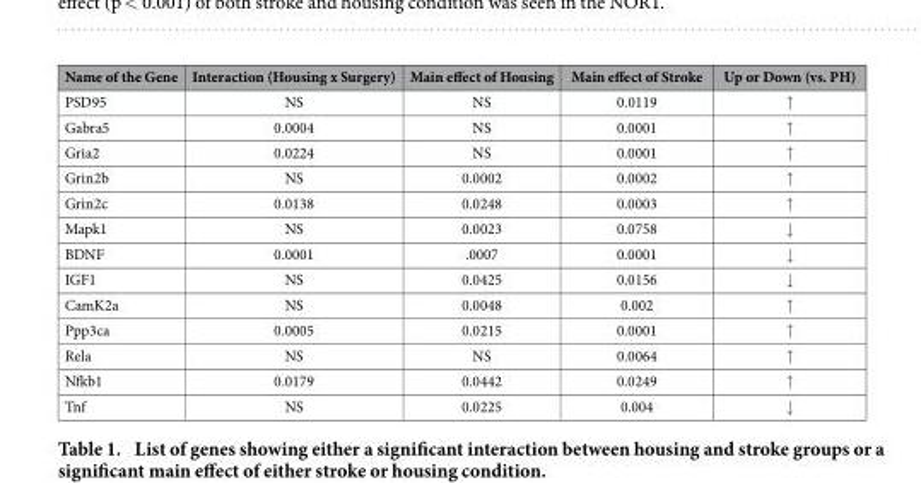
<table><thead><tr><td>Name of the Gene</td><td>Interaction (Housing x Surgery)</td><td>Main effect of Housing</td><td>Main effect of Stroke</td><td>Up or Down (vs. PH)</td></tr></thead><tbody><tr><td>PSD95</td><td>NS</td><td>NS</td><td>0.0119</td><td>↑</td></tr><tr><td>Gabra5</td><td>0.0004</td><td>NS</td><td>0.0001</td><td>↑</td></tr><tr><td>Gria2</td><td>0.0224</td><td>NS</td><td>0.0001</td><td>↑</td></tr><tr><td>Grin2b</td><td>NS</td><td>0.0002</td><td>0.0002</td><td>↑</td></tr><tr><td>Grin2c</td><td>0.0138</td><td>0.0248</td><td>0.0003</td><td>↑</td></tr><tr><td>Mapk1</td><td>NS</td><td>0.0023</td><td>0.0758</td><td>↓</td></tr><tr><td>BDNF</td><td>0.0001</td><td>.0007</td><td>0.0001</td><td>↓</td></tr><tr><td>IGF1</td><td>NS</td><td>0.0425</td><td>0.0156</td><td>↓</td></tr><tr><td>CamK2a</td><td>NS</td><td>0.0048</td><td>0.002</td><td>↑</td></tr><tr><td>Ppp3ca</td><td>0.0005</td><td>0.0215</td><td>0.0001</td><td>↑</td></tr><tr><td>Rela</td><td>NS</td><td>NS</td><td>0.0064</td><td>↑</td></tr><tr><td>Nfkb1</td><td>0.0179</td><td>0.0442</td><td>0.0249</td><td>↑</td></tr><tr><td>Tnf</td><td>NS</td><td>0.0225</td><td>0.004</td><td>↓</td></tr></tbody></table>